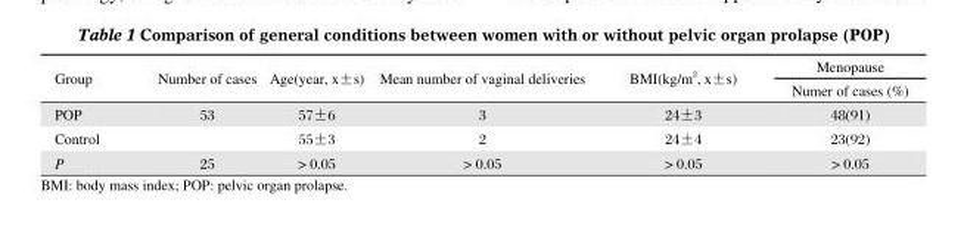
<table><thead><tr><td rowspan="2">Group</td><td rowspan="2">Number of cases</td><td rowspan="2">Age(year, x±s)</td><td rowspan="2">Mean number of vaginal deliveries</td><td rowspan="2">BMI(kg/m <sup>2</sup>, x±s)</td><td rowspan="2">Menopause Numer of cases (%)</td></tr><tr></tr></thead><tbody><tr><td>POP</td><td>53</td><td>57±6</td><td>3</td><td>24±3</td><td>48(91)</td></tr><tr><td>Control</td><td></td><td>55±3</td><td>2</td><td>24±4</td><td>23(92)</td></tr><tr><td>P</td><td>25</td><td>&gt; 0.05</td><td>&gt; 0.05</td><td>&gt; 0.05</td><td>&gt; 0.05</td></tr></tbody></table>